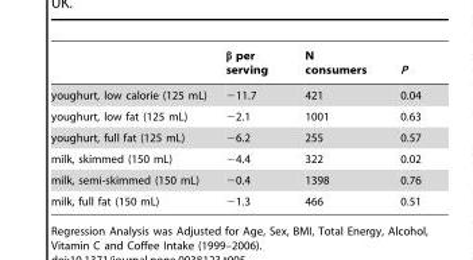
<table><thead><tr><td></td><td>β per serving</td><td>N consumers</td><td>P</td></tr></thead><tbody><tr><td>youghurt, low calorie (125 mL)</td><td>−11.7</td><td>421</td><td>0.04</td></tr><tr><td>youghurt, low fat (125 mL)</td><td>−2.1</td><td>1001</td><td>0.63</td></tr><tr><td>youghurt, full fat (125 mL)</td><td>−6.2</td><td>255</td><td>0.57</td></tr><tr><td>milk, skimmed (150 mL)</td><td>−4.4</td><td>322</td><td>0.02</td></tr><tr><td>milk, semi-skimmed (150 mL)</td><td>−0.4</td><td>1398</td><td>0.76</td></tr><tr><td>milk, full fat (150 mL)</td><td>−1.3</td><td>466</td><td>0.51</td></tr></tbody></table>